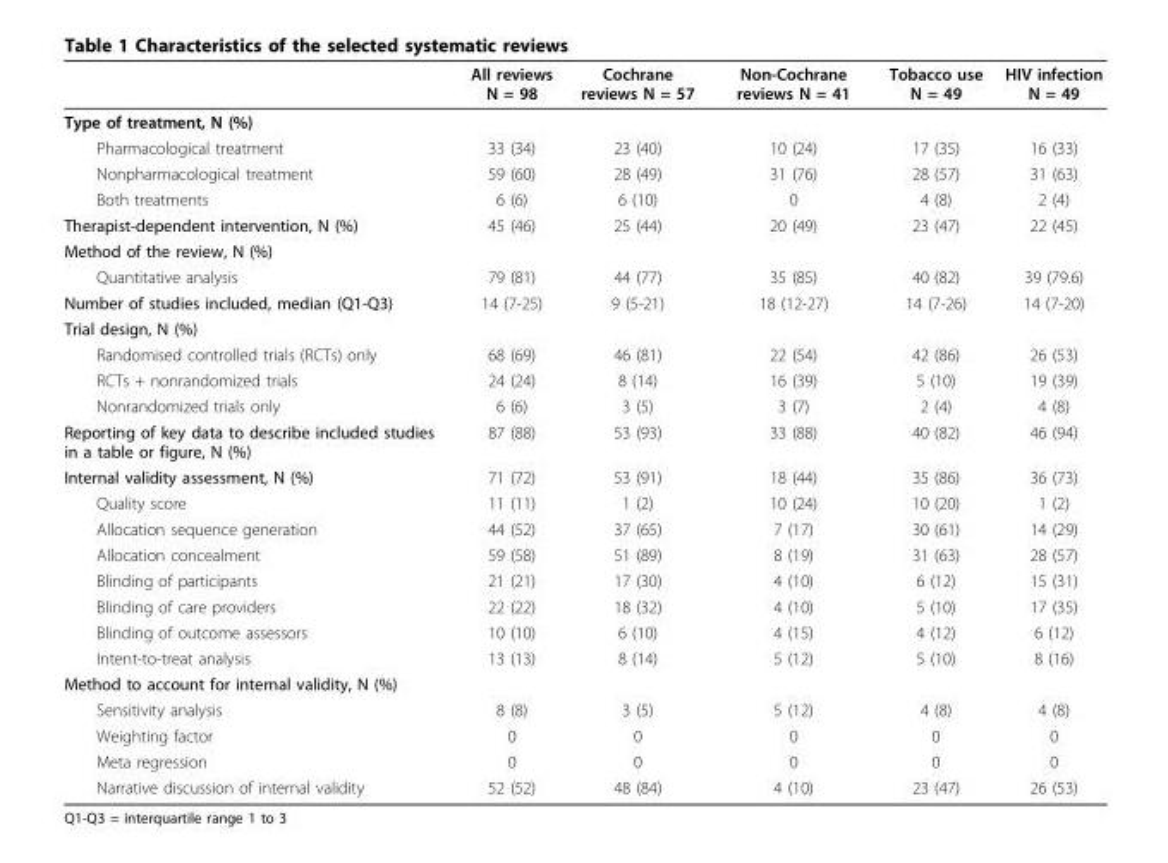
<table><thead><tr><td></td><td>All reviews N = 98</td><td>Cochrane reviews N = 57</td><td>Non-Cochrane reviews N = 41</td><td>Tobacco use N = 49</td><td>HIV infection N = 49</td></tr></thead><tbody><tr><td colspan="6">Type of treatment, N (%)</td></tr><tr><td>Pharmacological treatment</td><td>33 (34)</td><td>23 (40)</td><td>10 (24)</td><td>17 (35)</td><td>16 (33)</td></tr><tr><td>Nonpharmacological treatment</td><td>59 (60)</td><td>28 (49)</td><td>31 (76)</td><td>28 (57)</td><td>31 (63)</td></tr><tr><td>Both treatments</td><td>6 (6)</td><td>6 (10)</td><td>0</td><td>4 (8)</td><td>2 (4)</td></tr><tr><td>Therapist-dependent intervention, N (%)</td><td>45 (46)</td><td>25 (44)</td><td>20 (49)</td><td>23 (47)</td><td>22 (45)</td></tr><tr><td colspan="6">Method of the review, N (%)</td></tr><tr><td>Quantitative analysis</td><td>79 (81)</td><td>44 (77)</td><td>35 (85)</td><td>40 (82)</td><td>39 (79.6)</td></tr><tr><td>Number of studies included, median (Q1-Q3)</td><td>14 (7-25)</td><td>9 (5-21)</td><td>18 (12-27)</td><td>14 (7-26)</td><td>14 (7-20)</td></tr><tr><td colspan="6">Trial design, N (%)</td></tr><tr><td>Randomised controlled trials (RCTs) only</td><td>68 (69)</td><td>46 (81)</td><td>22 (54)</td><td>42 (86)</td><td>26 (53)</td></tr><tr><td>RCTs + nonrandomized trials</td><td>24 (24)</td><td>8 (14)</td><td>16 (39)</td><td>5 (10)</td><td>19 (39)</td></tr><tr><td>Nonrandomized trials only</td><td>6 (6)</td><td>3 (5)</td><td>3 (7)</td><td>2 (4)</td><td>4 (8)</td></tr><tr><td>Reporting of key data to describe included studies in a table or figure, N (%)</td><td>87 (88)</td><td>53 (93)</td><td>33 (88)</td><td>40 (82)</td><td>46 (94)</td></tr><tr><td>Internal validity assessment, N (%)</td><td>71 (72)</td><td>53 (91)</td><td>18 (44)</td><td>35 (86)</td><td>36 (73)</td></tr><tr><td>Quality score</td><td>11 (11)</td><td>1 (2)</td><td>10 (24)</td><td>10 (20)</td><td>1 (2)</td></tr><tr><td>Allocation sequence generation</td><td>44 (52)</td><td>37 (65)</td><td>7 (17)</td><td>30 (61)</td><td>14 (29)</td></tr><tr><td>Allocation concealment</td><td>59 (58)</td><td>51 (89)</td><td>8 (19)</td><td>31 (63)</td><td>28 (57)</td></tr><tr><td>Blinding of participants</td><td>21 (21)</td><td>17 (30)</td><td>4 (10)</td><td>6 (12)</td><td>15 (31)</td></tr><tr><td>Blinding of care providers</td><td>22 (22)</td><td>18 (32)</td><td>4 (10)</td><td>5 (10)</td><td>17 (35)</td></tr><tr><td>Blinding of outcome assessors</td><td>10 (10)</td><td>6 (10)</td><td>4 (15)</td><td>4 (12)</td><td>6 (12)</td></tr><tr><td>Intent-to-treat analysis</td><td>13 (13)</td><td>8 (14)</td><td>5 (12)</td><td>5 (10)</td><td>8 (16)</td></tr><tr><td colspan="6">Method to account for internal validity, N (%)</td></tr><tr><td>Sensitivity analysis</td><td>8 (8)</td><td>3 (5)</td><td>5 (12)</td><td>4 (8)</td><td>4 (8)</td></tr><tr><td>Weighting factor</td><td>0</td><td>0</td><td>0</td><td>0</td><td>0</td></tr><tr><td>Meta regression</td><td>0</td><td>0</td><td>0</td><td>0</td><td>0</td></tr><tr><td>Narrative discussion of internal validity</td><td>52 (52)</td><td>48 (84)</td><td>4 (10)</td><td>23 (47)</td><td>26 (53)</td></tr></tbody></table>